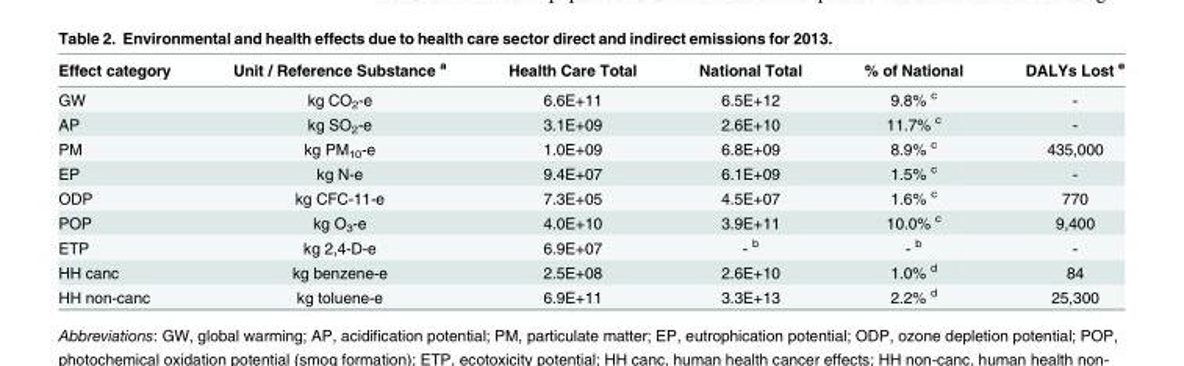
<table><thead><tr><td>Effect category</td><td>Unit / Reference Substance <sup>a</sup></td><td>Health Care Total</td><td>National Total</td><td>% of National</td><td>DALYs Lost <sup>e</sup></td></tr></thead><tbody><tr><td>GW</td><td>kg CO<sub>2</sub>-e</td><td>6.6E+11</td><td>6.5E+12</td><td>9.8% <sup>c</sup></td><td>-</td></tr><tr><td>AP</td><td>kg SO<sub>2</sub>-e</td><td>3.1E+09</td><td>2.6E+10</td><td>11.7% <sup>c</sup></td><td>-</td></tr><tr><td>PM</td><td>kg PM<sub>10</sub>-e</td><td>1.0E+09</td><td>6.8E+09</td><td>8.9% <sup>c</sup></td><td>435,000</td></tr><tr><td>EP</td><td>kg N-e</td><td>9.4E+07</td><td>6.1E+09</td><td>1.5% <sup>c</sup></td><td>-</td></tr><tr><td>ODP</td><td>kg CFC-11-e</td><td>7.3E+05</td><td>4.5E+07</td><td>1.6% <sup>c</sup></td><td>770</td></tr><tr><td>POP</td><td>kg O<sub>3</sub>-e</td><td>4.0E+10</td><td>3.9E+11</td><td>10.0% <sup>c</sup></td><td>9,400</td></tr><tr><td>ETP</td><td>kg 2,4-D-e</td><td>6.9E+07</td><td>- <sup>b</sup></td><td>- <sup>b</sup></td><td>-</td></tr><tr><td>HH canc</td><td>kg benzene-e</td><td>2.5E+08</td><td>2.6E+10</td><td>1.0% <sup>d</sup></td><td>84</td></tr><tr><td>HH non-canc</td><td>kg toluene-e</td><td>6.9E+11</td><td>3.3E+13</td><td>2.2% <sup>d</sup></td><td>25,300</td></tr></tbody></table>